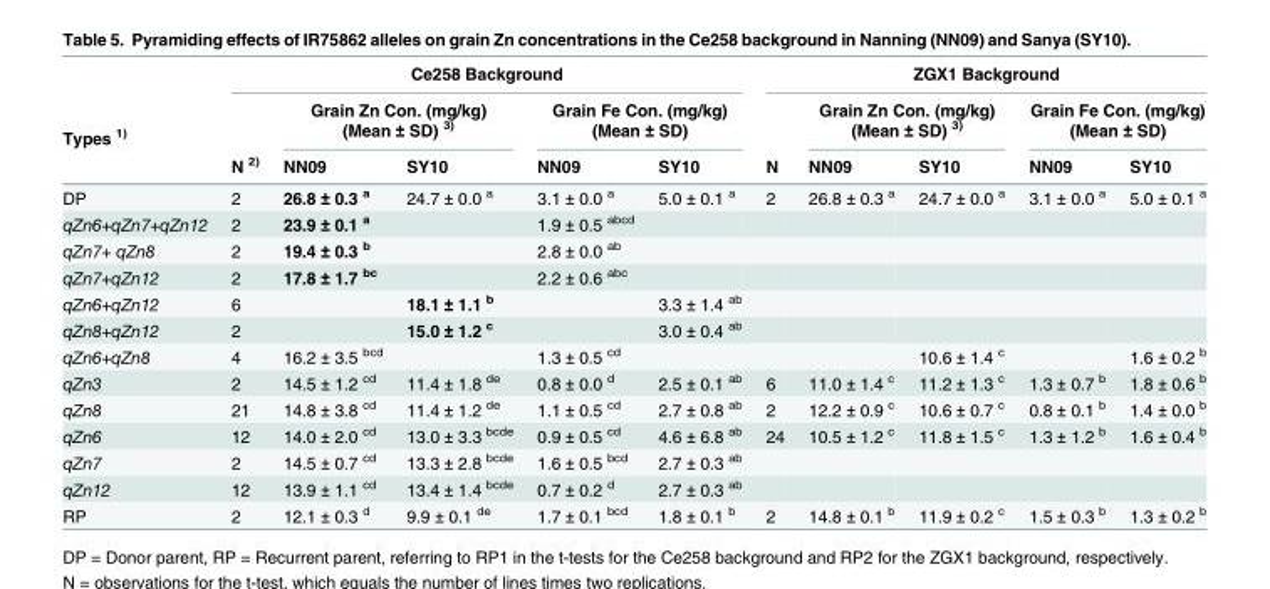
<table><thead><tr><td rowspan="3">Types <sup>1)</sup></td><td colspan="5">Ce258 Background</td><td colspan="5">ZGX1 Background</td></tr><tr><td rowspan="2">N <sup>2)</sup></td><td colspan="2">Grain Zn Con. (mg/kg) (Mean ± SD) <sup>3)</sup></td><td colspan="2">Grain Fe Con. (mg/kg) (Mean ± SD)</td><td rowspan="2">N</td><td colspan="2">Grain Zn Con. (mg/kg) (Mean ± SD) <sup>3)</sup></td><td colspan="2">Grain Fe Con. (mg/kg) (Mean ± SD)</td></tr><tr><td>NN09</td><td>SY10</td><td>NN09</td><td>SY10</td><td>NN09</td><td>SY10</td><td>NN09</td><td>SY10</td></tr></thead><tbody><tr><td>DP</td><td>2</td><td>26.8 ± 0.3 <sup>a</sup></td><td>24.7 ± 0.0 <sup>a</sup></td><td>3.1 ± 0.0 <sup>a</sup></td><td>5.0 ± 0.1 <sup>a</sup></td><td>2</td><td>26.8 ± 0.3 <sup>a</sup></td><td>24.7 ± 0.0 <sup>a</sup></td><td>3.1 ± 0.0 <sup>a</sup></td><td>5.0 ± 0.1 <sup>a</sup></td></tr><tr><td>qZn6+qZn7+qZn12</td><td>2</td><td>23.9 ± 0.1 <sup>a</sup></td><td></td><td>1.9 ± 0.5 <sup>abcd</sup></td><td></td><td></td><td></td><td></td><td></td><td></td></tr><tr><td>qZn7+ qZn8</td><td>2</td><td>19.4 ± 0.3 <sup>b</sup></td><td></td><td>2.8 ± 0.0 <sup>ab</sup></td><td></td><td></td><td></td><td></td><td></td><td></td></tr><tr><td>qZn7+qZn12</td><td>2</td><td>17.8 ± 1.7 <sup>bc</sup></td><td></td><td>2.2 ± 0.6 <sup>abc</sup></td><td></td><td></td><td></td><td></td><td></td><td></td></tr><tr><td>qZn6+qZn12</td><td>6</td><td></td><td>18.1 ± 1.1 <sup>b</sup></td><td></td><td>3.3 ± 1.4 <sup>ab</sup></td><td></td><td></td><td></td><td></td><td></td></tr><tr><td>qZn8+qZn12</td><td>2</td><td></td><td>15.0 ± 1.2 <sup>c</sup></td><td></td><td>3.0 ± 0.4 <sup>ab</sup></td><td></td><td></td><td></td><td></td><td></td></tr><tr><td>qZn6+qZn8</td><td>4</td><td>16.2 ± 3.5 <sup>bcd</sup></td><td></td><td>1.3 ± 0.5 <sup>cd</sup></td><td></td><td></td><td></td><td>10.6 ± 1.4 <sup>c</sup></td><td></td><td>1.6 ± 0.2 <sup>b</sup></td></tr><tr><td>qZn3</td><td>2</td><td>14.5 ± 1.2 <sup>cd</sup></td><td>11.4 ± 1.8 <sup>de</sup></td><td>0.8 ± 0.0 <sup>d</sup></td><td>2.5 ± 0.1 <sup>ab</sup></td><td>6</td><td>11.0 ± 1.4 <sup>c</sup></td><td>11.2 ± 1.3 <sup>c</sup></td><td>1.3 ± 0.7 <sup>b</sup></td><td>1.8 ± 0.6 <sup>b</sup></td></tr><tr><td>qZn8</td><td>21</td><td>14.8 ± 3.8 <sup>cd</sup></td><td>11.4 ± 1.2 <sup>de</sup></td><td>1.1 ± 0.5 <sup>cd</sup></td><td>2.7 ± 0.8 <sup>ab</sup></td><td>2</td><td>12.2 ± 0.9 <sup>c</sup></td><td>10.6 ± 0.7 <sup>c</sup></td><td>0.8 ± 0.1 <sup>b</sup></td><td>1.4 ± 0.0 <sup>b</sup></td></tr><tr><td>qZn6</td><td>12</td><td>14.0 ± 2.0 <sup>cd</sup></td><td>13.0 ± 3.3 <sup>bcde</sup></td><td>0.9 ± 0.5 <sup>cd</sup></td><td>4.6 ± 6.8 <sup>ab</sup></td><td>24</td><td>10.5 ± 1.2 <sup>c</sup></td><td>11.8 ± 1.5 <sup>c</sup></td><td>1.3 ± 1.2 <sup>b</sup></td><td>1.6 ± 0.4 <sup>b</sup></td></tr><tr><td>qZn7</td><td>2</td><td>14.5 ± 0.7 <sup>cd</sup></td><td>13.3 ± 2.8 <sup>bcde</sup></td><td>1.6 ± 0.5 <sup>bcd</sup></td><td>2.7 ± 0.3 <sup>ab</sup></td><td></td><td></td><td></td><td></td><td></td></tr><tr><td>qZn12</td><td>12</td><td>13.9 ± 1.1 <sup>cd</sup></td><td>13.4 ± 1.4 <sup>bcde</sup></td><td>0.7 ± 0.2 <sup>d</sup></td><td>2.7 ± 0.3 <sup>ab</sup></td><td></td><td></td><td></td><td></td><td></td></tr><tr><td>RP</td><td>2</td><td>12.1 ± 0.3 <sup>d</sup></td><td>9.9 ± 0.1 <sup>de</sup></td><td>1.7 ± 0.1 <sup>bcd</sup></td><td>1.8 ± 0.1 <sup>b</sup></td><td>2</td><td>14.8 ± 0.1 <sup>b</sup></td><td>11.9 ± 0.2 <sup>c</sup></td><td>1.5 ± 0.3 <sup>b</sup></td><td>1.3 ± 0.2 <sup>b</sup></td></tr></tbody></table>